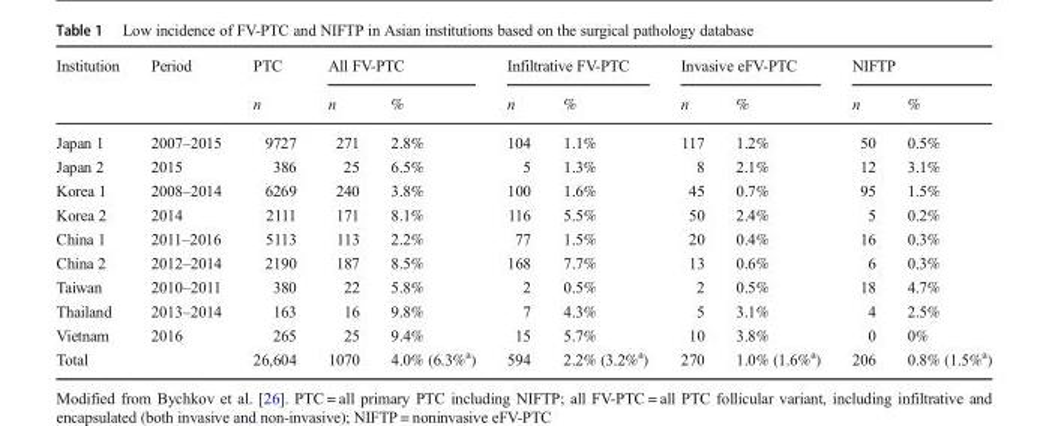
<table><thead><tr><td rowspan="2">Institution</td><td rowspan="2">Period</td><td rowspan="2">PTC n</td><td colspan="2">All FV-PTC</td><td colspan="2">Infiltrative FV-PTC</td><td colspan="2">Invasive eFV-PTC</td><td colspan="2">NIFTP</td></tr><tr><td>n</td><td>%</td><td>n</td><td>%</td><td>n</td><td>%</td><td>n</td><td>%</td></tr></thead><tbody><tr><td>Japan 1</td><td>2007–2015</td><td>9727</td><td>271</td><td>2.8%</td><td>104</td><td>1.1%</td><td>117</td><td>1.2%</td><td>50</td><td>0.5%</td></tr><tr><td>Japan 2</td><td>2015</td><td>386</td><td>25</td><td>6.5%</td><td>5</td><td>1.3%</td><td>8</td><td>2.1%</td><td>12</td><td>3.1%</td></tr><tr><td>Korea 1</td><td>2008–2014</td><td>6269</td><td>240</td><td>3.8%</td><td>100</td><td>1.6%</td><td>45</td><td>0.7%</td><td>95</td><td>1.5%</td></tr><tr><td>Korea 2</td><td>2014</td><td>2111</td><td>171</td><td>8.1%</td><td>116</td><td>5.5%</td><td>50</td><td>2.4%</td><td>5</td><td>0.2%</td></tr><tr><td>China 1</td><td>2011–2016</td><td>5113</td><td>113</td><td>2.2%</td><td>77</td><td>1.5%</td><td>20</td><td>0.4%</td><td>16</td><td>0.3%</td></tr><tr><td>China 2</td><td>2012–2014</td><td>2190</td><td>187</td><td>8.5%</td><td>168</td><td>7.7%</td><td>13</td><td>0.6%</td><td>6</td><td>0.3%</td></tr><tr><td>Taiwan</td><td>2010–2011</td><td>380</td><td>22</td><td>5.8%</td><td>2</td><td>0.5%</td><td>2</td><td>0.5%</td><td>18</td><td>4.7%</td></tr><tr><td>Thailand</td><td>2013–2014</td><td>163</td><td>16</td><td>9.8%</td><td>7</td><td>4.3%</td><td>5</td><td>3.1%</td><td>4</td><td>2.5%</td></tr><tr><td>Vietnam</td><td>2016</td><td>265</td><td>25</td><td>9.4%</td><td>15</td><td>5.7%</td><td>10</td><td>3.8%</td><td>0</td><td>0%</td></tr><tr><td colspan="2">Total</td><td>26,604</td><td>1070</td><td>4.0% (6.3%<sup>a</sup>)</td><td>594</td><td>2.2% (3.2%<sup>a</sup>)</td><td>270</td><td>1.0% (1.6%<sup>a</sup>)</td><td>206</td><td>0.8% (1.5%<sup>a</sup>)</td></tr></tbody></table>